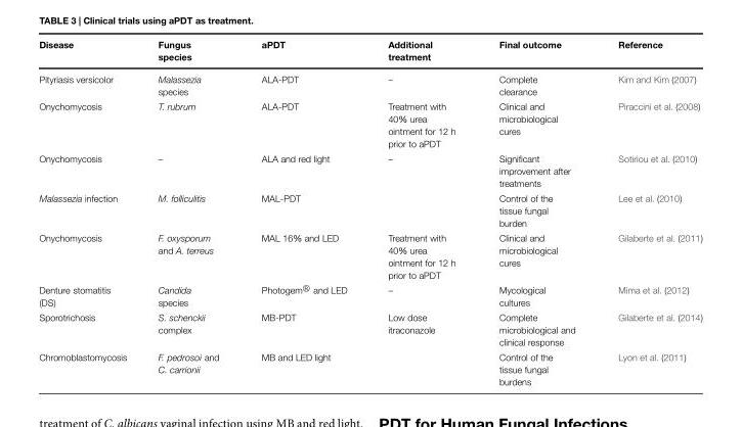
<table><thead><tr><td>Disease</td><td>Fungus species</td><td>aPDT</td><td>Additional treatment</td><td>Final outcome</td><td>Reference</td></tr></thead><tbody><tr><td>Pityriasis versicolor</td><td>Malassezia species</td><td>ALA-PDT</td><td>–</td><td>Complete clearance</td><td>Kim and Kim (2007)</td></tr><tr><td>Onychomycosis</td><td>T. rubrum</td><td>ALA-PDT</td><td>Treatment with 40% urea ointment for 12 h prior to aPDT</td><td>Clinical and microbiological cures</td><td>Piraccini et al. (2008)</td></tr><tr><td>Onychomycosis</td><td>–</td><td>ALA and red light</td><td>–</td><td>Significant improvement after treatments</td><td>Sotiriou et al. (2010)</td></tr><tr><td>Malassezia infection</td><td>M. folliculitis</td><td>MAL-PDT</td><td></td><td>Control of the tissue fungal burden</td><td>Lee et al. (2010)</td></tr><tr><td>Onychomycosis</td><td>F. oxysporum and A. terreus</td><td>MAL 16% and LED</td><td>Treatment with 40% urea ointment for 12 h prior to aPDT</td><td>Clinical and microbiological cures</td><td>Gilaberte et al. (2011)</td></tr><tr><td>Denture stomatitis (DS)</td><td>Candida species</td><td>Photogem<sup>®</sup> and LED</td><td>–</td><td>Mycological cultures</td><td>Mima et al. (2012)</td></tr><tr><td>Sporotrichosis</td><td>S. schenckii complex</td><td>MB-PDT</td><td>Low dose itraconazole</td><td>Complete microbiological and clinical response</td><td>Gilaberte et al. (2014)</td></tr><tr><td>Chromoblastomycosis</td><td>F. pedrosoi and C. carrionii</td><td>MB and LED light</td><td></td><td>Control of the tissue fungal burdens</td><td>Lyon et al. (2011)</td></tr></tbody></table>